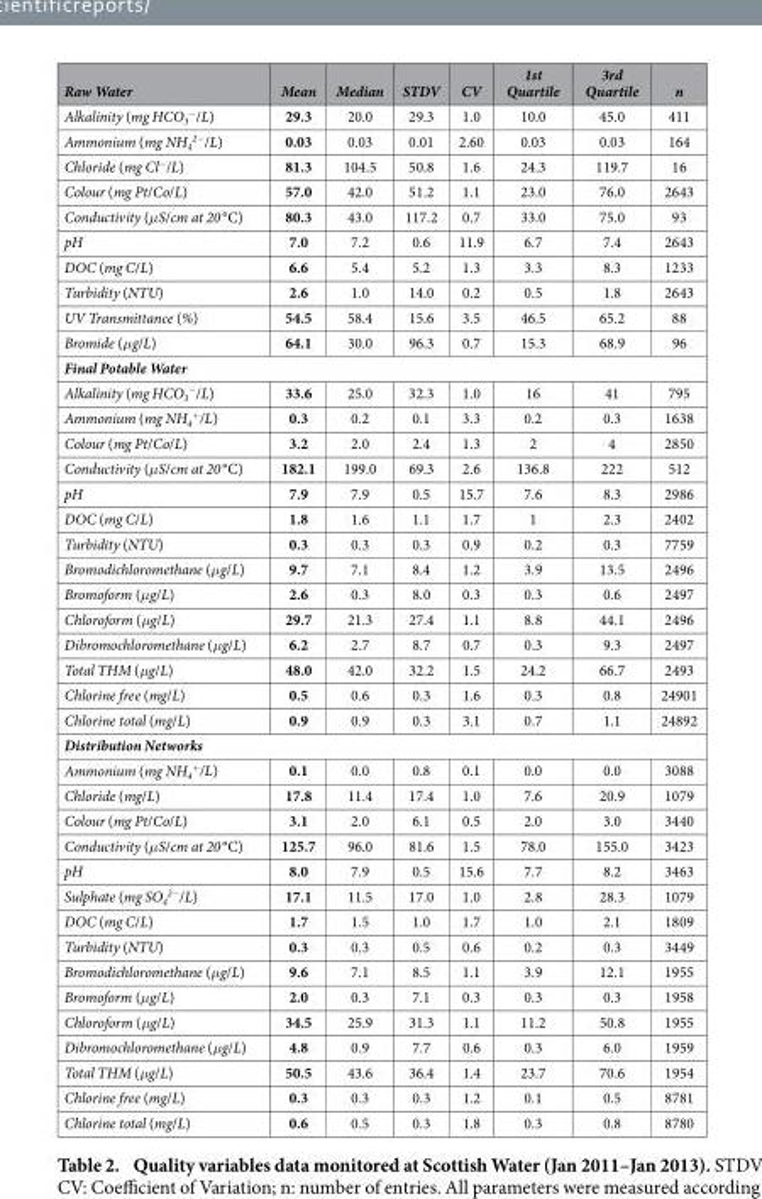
<table><thead><tr><td>Raw Water</td><td>Mean</td><td>Median</td><td>STDV</td><td>CV</td><td>1st Quartile</td><td>3rd Quartile</td><td>n</td></tr></thead><tbody><tr><td>Alkalinity (mg HCO<sub>3</sub> <sup>−</sup>/L)</td><td>29.3</td><td>20.0</td><td>29.3</td><td>1.0</td><td>10.0</td><td>45.0</td><td>411</td></tr><tr><td>Ammonium (mg NH<sub>4</sub> <sup>2−</sup>/L)</td><td>0.03</td><td>0.03</td><td>0.01</td><td>2.60</td><td>0.03</td><td>0.03</td><td>164</td></tr><tr><td>Chloride (mg Cl<sup>−</sup>/L)</td><td>81.3</td><td>104.5</td><td>50.8</td><td>1.6</td><td>24.3</td><td>119.7</td><td>16</td></tr><tr><td>Colour (mg Pt/Co/L)</td><td>57.0</td><td>42.0</td><td>51.2</td><td>1.1</td><td>23.0</td><td>76.0</td><td>2643</td></tr><tr><td>Conductivity (μS/cm at 20 °C)</td><td>80.3</td><td>43.0</td><td>117.2</td><td>0.7</td><td>33.0</td><td>75.0</td><td>93</td></tr><tr><td>pH</td><td>7.0</td><td>7.2</td><td>0.6</td><td>11.9</td><td>6.7</td><td>7.4</td><td>2643</td></tr><tr><td>DOC (mg C/L)</td><td>6.6</td><td>5.4</td><td>5.2</td><td>1.3</td><td>3.3</td><td>8.3</td><td>1233</td></tr><tr><td>Turbidity (NTU)</td><td>2.6</td><td>1.0</td><td>14.0</td><td>0.2</td><td>0.5</td><td>1.8</td><td>2643</td></tr><tr><td>UV Transmittance (%)</td><td>54.5</td><td>58.4</td><td>15.6</td><td>3.5</td><td>46.5</td><td>65.2</td><td>88</td></tr><tr><td>Bromide (μg/L)</td><td>64.1</td><td>30.0</td><td>96.3</td><td>0.7</td><td>15.3</td><td>68.9</td><td>96</td></tr><tr><td colspan="8">Final Potable Water</td></tr><tr><td>Alkalinity (mg HCO<sub>3</sub> <sup>−</sup>/L)</td><td>33.6</td><td>25.0</td><td>32.3</td><td>1.0</td><td>16</td><td>41</td><td>795</td></tr><tr><td>Ammonium (mg NH<sub>4</sub> <sup>+</sup>/L)</td><td>0.3</td><td>0.2</td><td>0.1</td><td>3.3</td><td>0.2</td><td>0.3</td><td>1638</td></tr><tr><td>Colour (mg Pt/Co/L)</td><td>3.2</td><td>2.0</td><td>2.4</td><td>1.3</td><td>2</td><td>4</td><td>2850</td></tr><tr><td>Conductivity (μS/cm at 20 °C)</td><td>182.1</td><td>199.0</td><td>69.3</td><td>2.6</td><td>136.8</td><td>222</td><td>512</td></tr><tr><td>pH</td><td>7.9</td><td>7.9</td><td>0.5</td><td>15.7</td><td>7.6</td><td>8.3</td><td>2986</td></tr><tr><td>DOC (mg C/L)</td><td>1.8</td><td>1.6</td><td>1.1</td><td>1.7</td><td>1</td><td>2.3</td><td>2402</td></tr><tr><td>Turbidity (NTU)</td><td>0.3</td><td>0.3</td><td>0.3</td><td>0.9</td><td>0.2</td><td>0.3</td><td>7759</td></tr><tr><td>Bromodichloromethane (μg/L)</td><td>9.7</td><td>7.1</td><td>8.4</td><td>1.2</td><td>3.9</td><td>13.5</td><td>2496</td></tr><tr><td>Bromoform (μg/L)</td><td>2.6</td><td>0.3</td><td>8.0</td><td>0.3</td><td>0.3</td><td>0.6</td><td>2497</td></tr><tr><td>Chloroform (μg/L)</td><td>29.7</td><td>21.3</td><td>27.4</td><td>1.1</td><td>8.8</td><td>44.1</td><td>2496</td></tr><tr><td>Dibromochloromethane (μg/L)</td><td>6.2</td><td>2.7</td><td>8.7</td><td>0.7</td><td>0.3</td><td>9.3</td><td>2497</td></tr><tr><td>Total THM (μg/L)</td><td>48.0</td><td>42.0</td><td>32.2</td><td>1.5</td><td>24.2</td><td>66.7</td><td>2493</td></tr><tr><td>Chlorine free (mg/L)</td><td>0.5</td><td>0.6</td><td>0.3</td><td>1.6</td><td>0.3</td><td>0.8</td><td>24901</td></tr><tr><td>Chlorine total (mg/L)</td><td>0.9</td><td>0.9</td><td>0.3</td><td>3.1</td><td>0.7</td><td>1.1</td><td>24892</td></tr><tr><td colspan="8">Distribution Networks</td></tr><tr><td>Ammonium (mg NH<sub>4</sub> <sup>+</sup>/L)</td><td>0.1</td><td>0.0</td><td>0.8</td><td>0.1</td><td>0.0</td><td>0.0</td><td>3088</td></tr><tr><td>Chloride (mg/L)</td><td>17.8</td><td>11.4</td><td>17.4</td><td>1.0</td><td>7.6</td><td>20.9</td><td>1079</td></tr><tr><td>Colour (mg Pt/Co/L)</td><td>3.1</td><td>2.0</td><td>6.1</td><td>0.5</td><td>2.0</td><td>3.0</td><td>3440</td></tr><tr><td>Conductivity (μS/cm at 20 °C)</td><td>125.7</td><td>96.0</td><td>81.6</td><td>1.5</td><td>78.0</td><td>155.0</td><td>3423</td></tr><tr><td>pH</td><td>8.0</td><td>7.9</td><td>0.5</td><td>15.6</td><td>7.7</td><td>8.2</td><td>3463</td></tr><tr><td>Sulphate (mg SO<sub>4</sub> <sup>2−</sup>/L)</td><td>17.1</td><td>11.5</td><td>17.0</td><td>1.0</td><td>2.8</td><td>28.3</td><td>1079</td></tr><tr><td>DOC (mg C/L)</td><td>1.7</td><td>1.5</td><td>1.0</td><td>1.7</td><td>1.0</td><td>2.1</td><td>1809</td></tr><tr><td>Turbidity (NTU)</td><td>0.3</td><td>0.3</td><td>0.5</td><td>0.6</td><td>0.2</td><td>0.3</td><td>3449</td></tr><tr><td>Bromodichloromethane (μg/L)</td><td>9.6</td><td>7.1</td><td>8.5</td><td>1.1</td><td>3.9</td><td>12.1</td><td>1955</td></tr><tr><td>Bromoform (μg/L)</td><td>2.0</td><td>0.3</td><td>7.1</td><td>0.3</td><td>0.3</td><td>0.3</td><td>1958</td></tr><tr><td>Chloroform (μg/L)</td><td>34.5</td><td>25.9</td><td>31.3</td><td>1.1</td><td>11.2</td><td>50.8</td><td>1955</td></tr><tr><td>Dibromochloromethane (μg/L)</td><td>4.8</td><td>0.9</td><td>7.7</td><td>0.6</td><td>0.3</td><td>6.0</td><td>1959</td></tr><tr><td>Total THM (μg/L)</td><td>50.5</td><td>43.6</td><td>36.4</td><td>1.4</td><td>23.7</td><td>70.6</td><td>1954</td></tr><tr><td>Chlorine free (mg/L)</td><td>0.3</td><td>0.3</td><td>0.3</td><td>1.2</td><td>0.1</td><td>0.5</td><td>8781</td></tr><tr><td>Chlorine total (mg/L)</td><td>0.6</td><td>0.5</td><td>0.3</td><td>1.8</td><td>0.3</td><td>0.8</td><td>8780</td></tr></tbody></table>